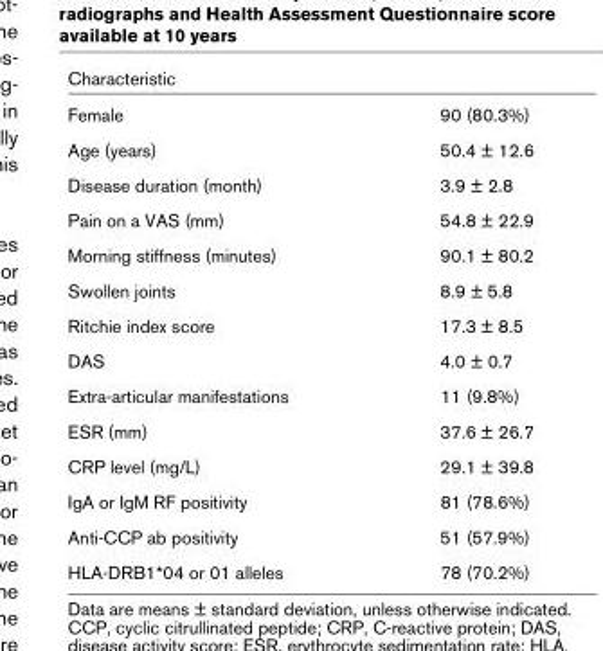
<table><thead><tr><td>Characteristic</td><td></td></tr></thead><tbody><tr><td>Female</td><td>90 (80.3%)</td></tr><tr><td>Age (years)</td><td>50.4 ± 12.6</td></tr><tr><td>Disease duration (month)</td><td>3.9 ± 2.8</td></tr><tr><td>Pain on a VAS (mm)</td><td>54.8 ± 22.9</td></tr><tr><td>Morning stiffness (minutes)</td><td>90.1 ± 80.2</td></tr><tr><td>Swollen joints</td><td>8.9 ± 5.8</td></tr><tr><td>Ritchie index score</td><td>17.3 ± 8.5</td></tr><tr><td>DAS</td><td>4.0 ± 0.7</td></tr><tr><td>Extra-articular manifestations</td><td>11 (9.8%)</td></tr><tr><td>ESR (mm)</td><td>37.6 ± 26.7</td></tr><tr><td>CRP level (mg/L)</td><td>29.1 ± 39.8</td></tr><tr><td>IgA or IgM RF positivity</td><td>81 (78.6%)</td></tr><tr><td>Anti-CCP ab positivity</td><td>51 (57.9%)</td></tr><tr><td>HLA-DRB1*04 or 01 alleles</td><td>78 (70.2%)</td></tr></tbody></table>